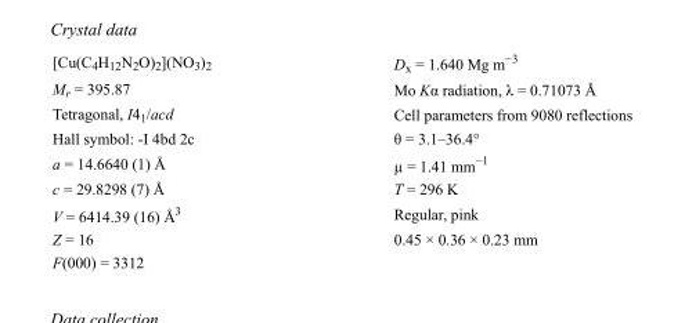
<table><tbody><tr><td>[Cu(C<sub>4</sub>H<sub>12</sub>N<sub>2</sub>O)<sub>2</sub>](NO<sub>3</sub>)<sub>2</sub></td><td>D<sub>x</sub> = 1.640 Mg m<sup>−3</sup></td></tr><tr><td>M<sub>r</sub> = 395.87</td><td>Mo Kα radiation, λ = 0.71073 Å</td></tr><tr><td>Tetragonal, I4<sub>1</sub>/acd</td><td>Cell parameters from 9080 reflections</td></tr><tr><td>Hall symbol: -I 4bd 2c</td><td>θ = 3.1–36.4°</td></tr><tr><td>a = 14.6640 (1) Å</td><td>µ = 1.41 mm<sup>−1</sup></td></tr><tr><td>c = 29.8298 (7) Å</td><td>T = 296 K</td></tr><tr><td>V = 6414.39 (16) Å<sup>3</sup></td><td>Regular, pink</td></tr><tr><td>Z = 16</td><td>0.45 × 0.36 × 0.23 mm</td></tr><tr><td>F(000) = 3312</td><td></td></tr></tbody></table>